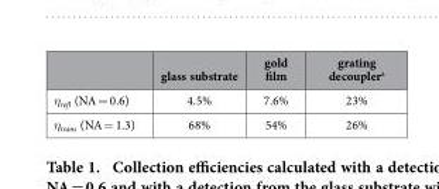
<table><thead><tr><td></td><td>glass substrate</td><td>gold film</td><td>grating decoupler<sup>a</sup></td></tr></thead><tbody><tr><td>η<sub>refl</sub> (NA = 0.6)</td><td>4.5%</td><td>7.6%</td><td>23%</td></tr><tr><td>η<sub>trans</sub> (NA = 1.3)</td><td>68%</td><td>54%</td><td>26%</td></tr></tbody></table>